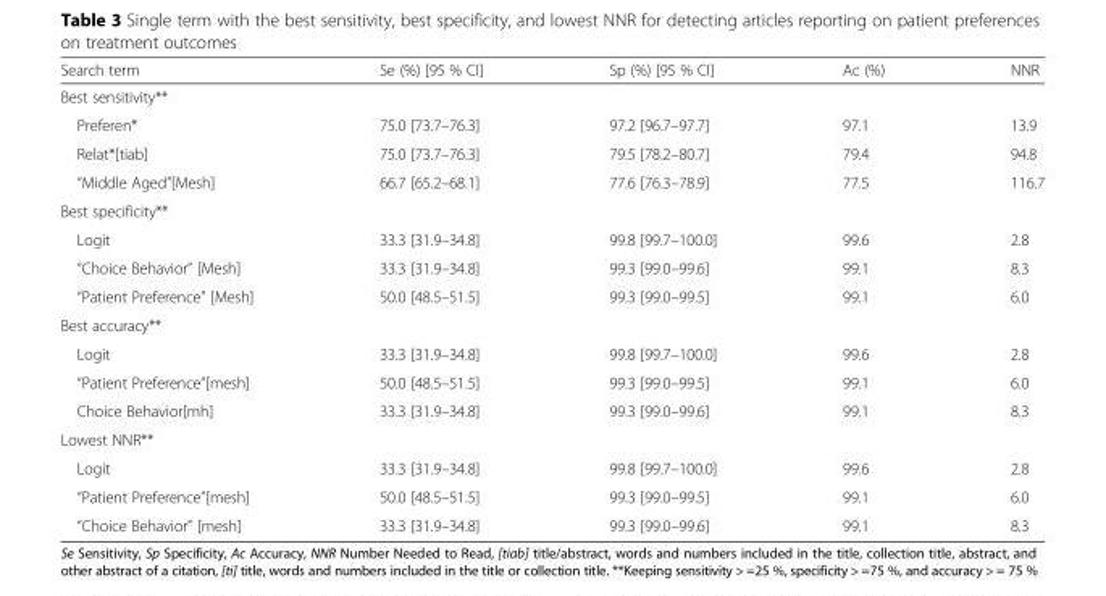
<table><thead><tr><td>Search term</td><td>Se (%) [95 % CI]</td><td>Sp (%) [95 % CI]</td><td>Ac (%)</td><td>NNR</td></tr></thead><tbody><tr><td colspan="5">Best sensitivity**</td></tr><tr><td>Preferen*</td><td>75.0 [73.7–76.3]</td><td>97.2 [96.7–97.7]</td><td>97.1</td><td>13.9</td></tr><tr><td>Relat*[tiab]</td><td>75.0 [73.7–76.3]</td><td>79.5 [78.2–80.7]</td><td>79.4</td><td>94.8</td></tr><tr><td>“Middle Aged”[Mesh]</td><td>66.7 [65.2–68.1]</td><td>77.6 [76.3–78.9]</td><td>77.5</td><td>116.7</td></tr><tr><td colspan="5">Best specificity**</td></tr><tr><td>Logit</td><td>33.3 [31.9–34.8]</td><td>99.8 [99.7–100.0]</td><td>99.6</td><td>2.8</td></tr><tr><td>“Choice Behavior” [Mesh]</td><td>33.3 [31.9–34.8]</td><td>99.3 [99.0–99.6]</td><td>99.1</td><td>8.3</td></tr><tr><td>“Patient Preference” [Mesh]</td><td>50.0 [48.5–51.5]</td><td>99.3 [99.0–99.5]</td><td>99.1</td><td>6.0</td></tr><tr><td colspan="5">Best accuracy**</td></tr><tr><td>Logit</td><td>33.3 [31.9–34.8]</td><td>99.8 [99.7–100.0]</td><td>99.6</td><td>2.8</td></tr><tr><td>“Patient Preference”[mesh]</td><td>50.0 [48.5–51.5]</td><td>99.3 [99.0–99.5]</td><td>99.1</td><td>6.0</td></tr><tr><td>Choice Behavior[mh]</td><td>33.3 [31.9–34.8]</td><td>99.3 [99.0–99.6]</td><td>99.1</td><td>8.3</td></tr><tr><td colspan="5">Lowest NNR**</td></tr><tr><td>Logit</td><td>33.3 [31.9–34.8]</td><td>99.8 [99.7–100.0]</td><td>99.6</td><td>2.8</td></tr><tr><td>“Patient Preference”[mesh]</td><td>50.0 [48.5–51.5]</td><td>99.3 [99.0–99.5]</td><td>99.1</td><td>6.0</td></tr><tr><td>“Choice Behavior” [mesh]</td><td>33.3 [31.9–34.8]</td><td>99.3 [99.0–99.6]</td><td>99.1</td><td>8.3</td></tr></tbody></table>